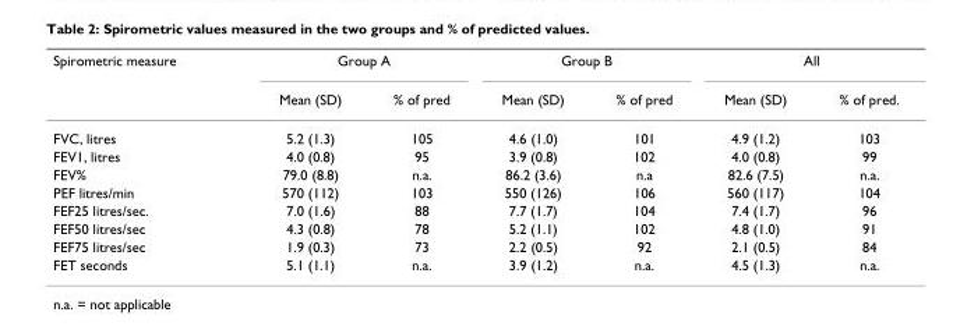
<table><thead><tr><td rowspan="2">Spirometric measure</td><td colspan="2">Group A</td><td colspan="2">Group B</td><td colspan="2">All</td></tr><tr><td>Mean (SD)</td><td>% of pred</td><td>Mean (SD)</td><td>% of pred</td><td>Mean (SD)</td><td>% of pred.</td></tr></thead><tbody><tr><td>FVC, litres</td><td>5.2 (1.3)</td><td>105</td><td>4.6 (1.0)</td><td>101</td><td>4.9 (1.2)</td><td>103</td></tr><tr><td>FEV1, litres</td><td>4.0 (0.8)</td><td>95</td><td>3.9 (0.8)</td><td>102</td><td>4.0 (0.8)</td><td>99</td></tr><tr><td>FEV%</td><td>79.0 (8.8)</td><td>n.a.</td><td>86.2 (3.6)</td><td>n.a</td><td>82.6 (7.5)</td><td>n.a.</td></tr><tr><td>PEF litres/min</td><td>570 (112)</td><td>103</td><td>550 (126)</td><td>106</td><td>560 (117)</td><td>104</td></tr><tr><td>FEF25 litres/sec.</td><td>7.0 (1.6)</td><td>88</td><td>7.7 (1.7)</td><td>104</td><td>7.4 (1.7)</td><td>96</td></tr><tr><td>FEF50 litres/sec</td><td>4.3 (0.8)</td><td>78</td><td>5.2 (1.1)</td><td>102</td><td>4.8 (1.0)</td><td>91</td></tr><tr><td>FEF75 litres/sec</td><td>1.9 (0.3)</td><td>73</td><td>2.2 (0.5)</td><td>92</td><td>2.1 (0.5)</td><td>84</td></tr><tr><td>FET seconds</td><td>5.1 (1.1)</td><td>n.a.</td><td>3.9 (1.2)</td><td>n.a.</td><td>4.5 (1.3)</td><td>n.a.</td></tr></tbody></table>